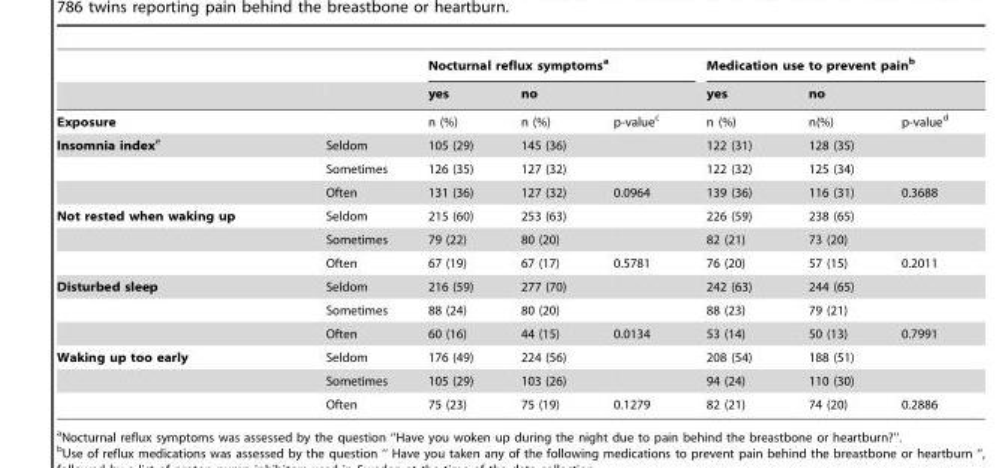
<table><thead><tr><td rowspan="2"></td><td rowspan="2"></td><td colspan="3">Nocturnal reflux symptoms<sup>a</sup></td><td colspan="3">Medication use to prevent pain<sup>b</sup></td></tr><tr><td>yes</td><td>no</td><td></td><td>yes</td><td>no</td><td></td></tr></thead><tbody><tr><td>Exposure</td><td></td><td>n (%)</td><td>n (%)</td><td>p-value<sup>c</sup></td><td>n (%)</td><td>n(%)</td><td>p-value<sup>d</sup></td></tr><tr><td rowspan="3">Insomnia indexe</td><td>Seldom</td><td>105 (29)</td><td>145 (36)</td><td></td><td>122 (31)</td><td>128 (35)</td><td></td></tr><tr><td>Sometimes</td><td>126 (35)</td><td>127 (32)</td><td></td><td>122 (32)</td><td>125 (34)</td><td></td></tr><tr><td>Often</td><td>131 (36)</td><td>127 (32)</td><td>0.0964</td><td>139 (36)</td><td>116 (31)</td><td>0.3688</td></tr><tr><td rowspan="3">Not rested when waking up</td><td>Seldom</td><td>215 (60)</td><td>253 (63)</td><td></td><td>226 (59)</td><td>238 (65)</td><td></td></tr><tr><td>Sometimes</td><td>79 (22)</td><td>80 (20)</td><td></td><td>82 (21)</td><td>73 (20)</td><td></td></tr><tr><td>Often</td><td>67 (19)</td><td>67 (17)</td><td>0.5781</td><td>76 (20)</td><td>57 (15)</td><td>0.2011</td></tr><tr><td rowspan="3">Disturbed sleep</td><td>Seldom</td><td>216 (59)</td><td>277 (70)</td><td></td><td>242 (63)</td><td>244 (65)</td><td></td></tr><tr><td>Sometimes</td><td>88 (24)</td><td>80 (20)</td><td></td><td>88 (23)</td><td>79 (21)</td><td></td></tr><tr><td>Often</td><td>60 (16)</td><td>44 (15)</td><td>0.0134</td><td>53 (14)</td><td>50 (13)</td><td>0.7991</td></tr><tr><td rowspan="3">Waking up too early</td><td>Seldom</td><td>176 (49)</td><td>224 (56)</td><td></td><td>208 (54)</td><td>188 (51)</td><td></td></tr><tr><td>Sometimes</td><td>105 (29)</td><td>103 (26)</td><td></td><td>94 (24)</td><td>110 (30)</td><td></td></tr><tr><td>Often</td><td>75 (23)</td><td>75 (19)</td><td>0.1279</td><td>82 (21)</td><td>74 (20)</td><td>0.2886</td></tr></tbody></table>